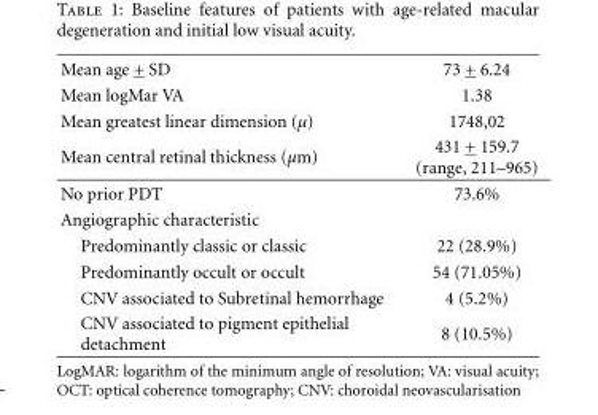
<table><tbody><tr><td>Mean age + SD</td><td>73 + 6.24</td></tr><tr><td>Mean logMar VA</td><td>1.38</td></tr><tr><td>Mean greatest linear dimension (µ)</td><td>1748,02</td></tr><tr><td>Mean central retinal thickness (µm)</td><td>431 + 159.7 (range, 211–965)</td></tr><tr><td>No prior PDT</td><td>73.6%</td></tr><tr><td colspan="2">Angiographic characteristic</td></tr><tr><td>Predominantly classic or classic</td><td>22 (28.9%)</td></tr><tr><td>Predominantly occult or occult</td><td>54 (71.05%)</td></tr><tr><td>CNV associated to Subretinal hemorrhage</td><td>4 (5.2%)</td></tr><tr><td>CNV associated to pigment epithelial detachment</td><td>8 (10.5%)</td></tr></tbody></table>